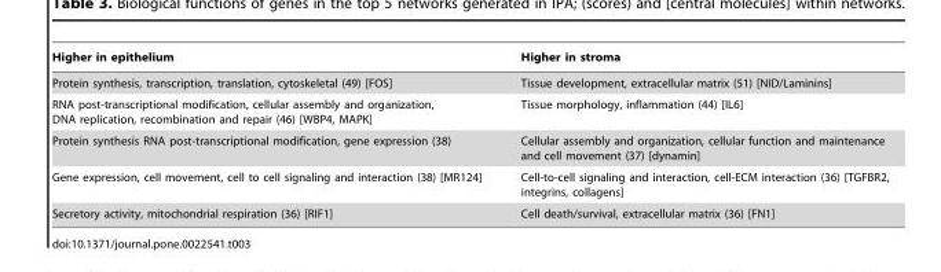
<table><thead><tr><td>Higher in epithelium</td><td>Higher in stroma</td></tr></thead><tbody><tr><td>Protein synthesis, transcription, translation, cytoskeletal (49) [FOS]</td><td>Tissue development, extracellular matrix (51) [NID/Laminins]</td></tr><tr><td>RNA post-transcriptional modification, cellular assembly and organization, DNA replication, recombination and repair (46) [WBP4, MAPK]</td><td>Tissue morphology, inflammation (44) [IL6]</td></tr><tr><td>Protein synthesis RNA post-transcriptional modification, gene expression (38)</td><td>Cellular assembly and organization, cellular function and maintenance and cell movement (37) [dynamin]</td></tr><tr><td>Gene expression, cell movement, cell to cell signaling and interaction (38) [MR124]</td><td>Cell-to-cell signaling and interaction, cell-ECM interaction (36) [TGFBR2, integrins, collagens]</td></tr><tr><td>Secretory activity, mitochondrial respiration (36) [RIF1]</td><td>Cell death/survival, extracellular matrix (36) [FN1]</td></tr></tbody></table>